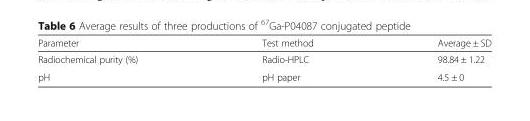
<table><thead><tr><td>Parameter</td><td>Test method</td><td>Average ± SD</td></tr></thead><tbody><tr><td>Radiochemical purity (%)</td><td>Radio-HPLC</td><td>98.84 ± 1.22</td></tr><tr><td>pH</td><td>pH paper</td><td>4.5 ± 0</td></tr></tbody></table>